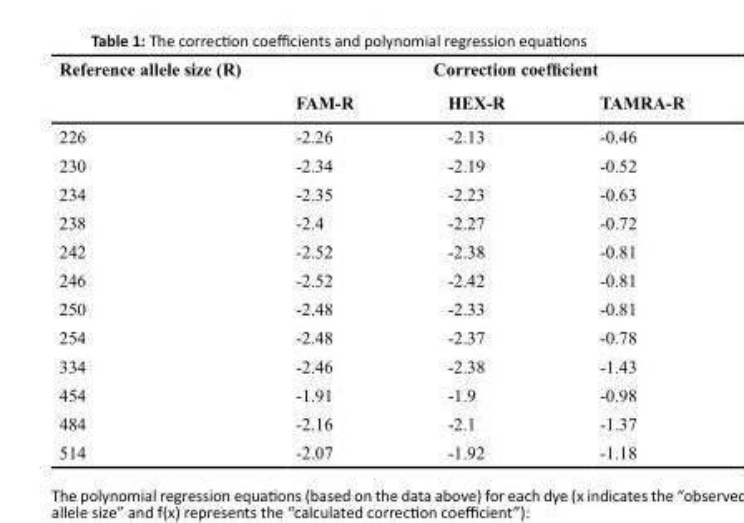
<table><thead><tr><td rowspan="2">Reference allele size (R)</td><td colspan="3">Correction coefficient</td></tr><tr><td>FAM-R</td><td>HEX-R</td><td>TAMRA-R</td></tr></thead><tbody><tr><td>226</td><td>-2.26</td><td>-2.13</td><td>-0.46</td></tr><tr><td>230</td><td>-2.34</td><td>-2.19</td><td>-0.52</td></tr><tr><td>234</td><td>-2.35</td><td>-2.23</td><td>-0.63</td></tr><tr><td>238</td><td>-2.4</td><td>-2.27</td><td>-0.72</td></tr><tr><td>242</td><td>-2.52</td><td>-2.38</td><td>-0.81</td></tr><tr><td>246</td><td>-2.52</td><td>-2.42</td><td>-0.81</td></tr><tr><td>250</td><td>-2.48</td><td>-2.33</td><td>-0.81</td></tr><tr><td>254</td><td>-2.48</td><td>-2.37</td><td>-0.78</td></tr><tr><td>334</td><td>-2.46</td><td>-2.38</td><td>-1.43</td></tr><tr><td>454</td><td>-1.91</td><td>-1.9</td><td>-0.98</td></tr><tr><td>484</td><td>-2.16</td><td>-2.1</td><td>-1.37</td></tr><tr><td>514</td><td>-2.07</td><td>-1.92</td><td>-1.18</td></tr></tbody></table>